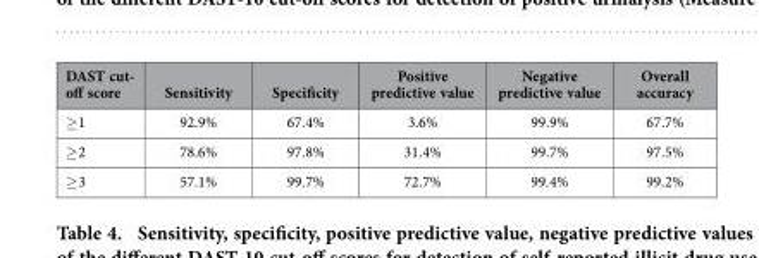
<table><thead><tr><td>DAST cut- off score</td><td>Sensitivity</td><td>Specificity</td><td>Positive predictive value</td><td>Negative predictive value</td><td>Overall accuracy</td></tr></thead><tbody><tr><td>≥ 1</td><td>92.9%</td><td>67.4%</td><td>3.6%</td><td>99.9%</td><td>67.7%</td></tr><tr><td>≥ 2</td><td>78.6%</td><td>97.8%</td><td>31.4%</td><td>99.7%</td><td>97.5%</td></tr><tr><td>≥ 3</td><td>57.1%</td><td>99.7%</td><td>72.7%</td><td>99.4%</td><td>99.2%</td></tr></tbody></table>